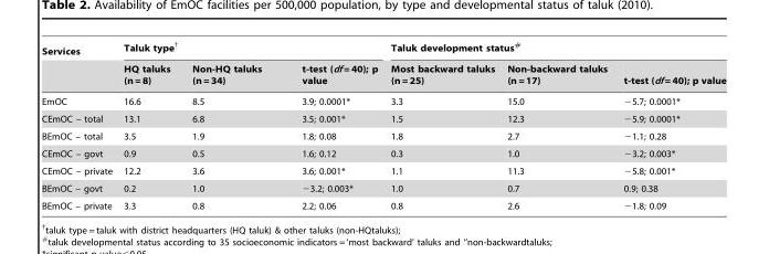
<table><thead><tr><td rowspan="2">Services</td><td colspan="3">Taluk type†</td><td colspan="3">Taluk development status#</td></tr><tr><td>HQ taluks (n = 8)</td><td>Non-HQ taluks (n = 34)</td><td>t-test (df = 40); p value</td><td>Most backward taluks (n = 25)</td><td>Non-backward taluks (n = 17)</td><td>t-test (df = 40); p value</td></tr></thead><tbody><tr><td>EmOC</td><td>16.6</td><td>8.5</td><td>3.9; 0.0001*</td><td>3.3</td><td>15.0</td><td>−5.7; 0.0001*</td></tr><tr><td>CEmOC – total</td><td>13.1</td><td>6.8</td><td>3.5; 0.001*</td><td>1.5</td><td>12.3</td><td>−5.9; 0.0001*</td></tr><tr><td>BEmOC – total</td><td>3.5</td><td>1.9</td><td>1.8; 0.08</td><td>1.8</td><td>2.7</td><td>−1.1; 0.28</td></tr><tr><td>CEmOC – govt</td><td>0.9</td><td>0.5</td><td>1.6; 0.12</td><td>0.3</td><td>1.0</td><td>−3.2; 0.003*</td></tr><tr><td>CEmOC – private</td><td>12.2</td><td>3.6</td><td>3.6; 0.001*</td><td>1.1</td><td>11.3</td><td>−5.8; 0.001*</td></tr><tr><td>BEmOC – govt</td><td>0.2</td><td>1.0</td><td>−3.2; 0.003*</td><td>1.0</td><td>0.7</td><td>0.9; 0.38</td></tr><tr><td>BEmOC – private</td><td>3.3</td><td>0.8</td><td>2.2; 0.06</td><td>0.8</td><td>2.6</td><td>−1.8; 0.09</td></tr></tbody></table>